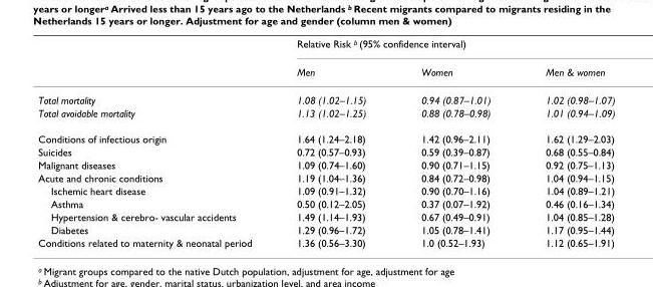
<table><thead><tr><td rowspan="2"></td><td colspan="3">Relative Risk b (95% confidence interval)</td></tr><tr><td>Men</td><td>Women</td><td>Men &amp; women</td></tr></thead><tbody><tr><td>Total mortality</td><td>1.08 (1.02–1.15)</td><td>0.94 (0.87–1.01)</td><td>1.02 (0.98–1.07)</td></tr><tr><td>Total avoidable mortality</td><td>1.13 (1.02–1.25)</td><td>0.88 (0.78–0.98)</td><td>1.01 (0.94–1.09)</td></tr><tr><td>Conditions of infectious origin</td><td>1.64 (1.24–2.18)</td><td>1.42 (0.96–2.11)</td><td>1.62 (1.29–2.03)</td></tr><tr><td>Suicides</td><td>0.72 (0.57–0.93)</td><td>0.59 (0.39–0.87)</td><td>0.68 (0.55–0.84)</td></tr><tr><td>Malignant diseases</td><td>1.09 (0.74–1.60)</td><td>0.90 (0.71–1.15)</td><td>0.92 (0.75–1.13)</td></tr><tr><td>Acute and chronic conditions</td><td>1.19 (1.04–1.36)</td><td>0.84 (0.72–0.98)</td><td>1.04 (0.94–1.15)</td></tr><tr><td>Ischemic heart disease</td><td>1.09 (0.91–1.32)</td><td>0.90 (0.70–1.16)</td><td>1.04 (0.89–1.21)</td></tr><tr><td>Asthma</td><td>0.50 (0.12–2.05)</td><td>0.37 (0.07–1.92)</td><td>0.46 (0.16–1.34)</td></tr><tr><td>Hypertension &amp; cerebro- vascular accidents</td><td>1.49 (1.14–1.93)</td><td>0.67 (0.49–0.91)</td><td>1.04 (0.85–1.28)</td></tr><tr><td>Diabetes</td><td>1.29 (0.96–1.72)</td><td>1.05 (0.78–1.41)</td><td>1.17 (0.95–1.44)</td></tr><tr><td>Conditions related to maternity &amp; neonatal period</td><td>1.36 (0.56–3.30)</td><td>1.0 (0.52–1.93)</td><td>1.12 (0.65–1.91)</td></tr></tbody></table>